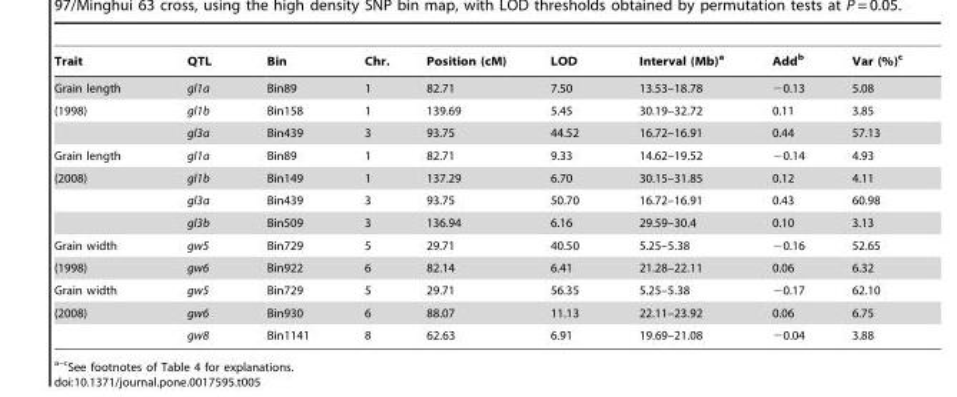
<table><thead><tr><td>Trait</td><td>QTL</td><td>Bin</td><td>Chr.</td><td>Position (cM)</td><td>LOD</td><td>Interval (Mb)<sup>a</sup></td><td>Add<sup>b</sup></td><td>Var (%)<sup>c</sup></td></tr></thead><tbody><tr><td>Grain length</td><td>gl1a</td><td>Bin89</td><td>1</td><td>82.71</td><td>7.50</td><td>13.53–18.78</td><td>−0.13</td><td>5.08</td></tr><tr><td rowspan="2">(1998)</td><td>gl1b</td><td>Bin158</td><td>1</td><td>139.69</td><td>5.45</td><td>30.19–32.72</td><td>0.11</td><td>3.85</td></tr><tr><td>gl3a</td><td>Bin439</td><td>3</td><td>93.75</td><td>44.52</td><td>16.72–16.91</td><td>0.44</td><td>57.13</td></tr><tr><td>Grain length</td><td>gl1a</td><td>Bin89</td><td>1</td><td>82.71</td><td>9.33</td><td>14.62–19.52</td><td>−0.14</td><td>4.93</td></tr><tr><td rowspan="3">(2008)</td><td>gl1b</td><td>Bin149</td><td>1</td><td>137.29</td><td>6.70</td><td>30.15–31.85</td><td>0.12</td><td>4.11</td></tr><tr><td>gl3a</td><td>Bin439</td><td>3</td><td>93.75</td><td>50.70</td><td>16.72–16.91</td><td>0.43</td><td>60.98</td></tr><tr><td>gl3b</td><td>Bin509</td><td>3</td><td>136.94</td><td>6.16</td><td>29.59–30.4</td><td>0.10</td><td>3.13</td></tr><tr><td>Grain width</td><td>gw5</td><td>Bin729</td><td>5</td><td>29.71</td><td>40.50</td><td>5.25–5.38</td><td>−0.16</td><td>52.65</td></tr><tr><td>(1998)</td><td>gw6</td><td>Bin922</td><td>6</td><td>82.14</td><td>6.41</td><td>21.28–22.11</td><td>0.06</td><td>6.32</td></tr><tr><td>Grain width</td><td>gw5</td><td>Bin729</td><td>5</td><td>29.71</td><td>56.35</td><td>5.25–5.38</td><td>−0.17</td><td>62.10</td></tr><tr><td rowspan="2">(2008)</td><td>gw6</td><td>Bin930</td><td>6</td><td>88.07</td><td>11.13</td><td>22.11–23.92</td><td>0.06</td><td>6.75</td></tr><tr><td>gw8</td><td>Bin1141</td><td>8</td><td>62.63</td><td>6.91</td><td>19.69–21.08</td><td>−0.04</td><td>3.88</td></tr></tbody></table>